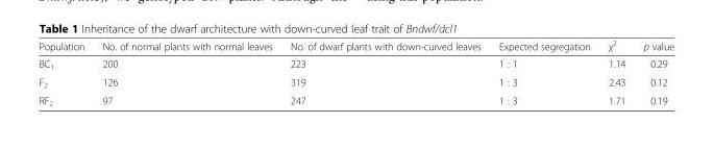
<table><thead><tr><td>Population</td><td>No. of normal plants with normal leaves</td><td>No. of dwarf plants with down-curved leaves</td><td>Expected segregation</td><td>χ<sup>2</sup></td><td>p value</td></tr></thead><tbody><tr><td>BC<sub>1</sub></td><td>200</td><td>223</td><td>1 : 1</td><td>1.14</td><td>0.29</td></tr><tr><td>F<sub>2</sub></td><td>126</td><td>319</td><td>1 : 3</td><td>2.43</td><td>0.12</td></tr><tr><td>RF<sub>2</sub></td><td>97</td><td>247</td><td>1 : 3</td><td>1.71</td><td>0.19</td></tr></tbody></table>